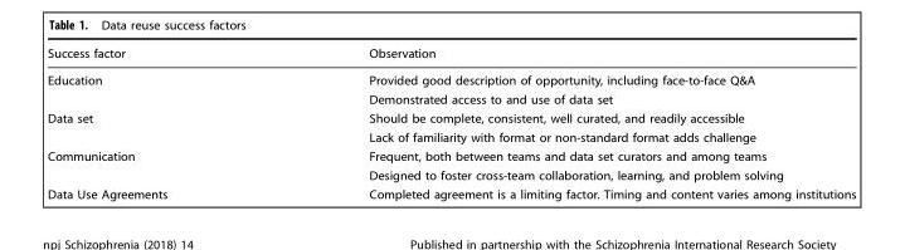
<table><thead><tr><td>Success factor</td><td>Observation</td></tr></thead><tbody><tr><td rowspan="2">Education</td><td>Provided good description of opportunity, including face-to-face Q&amp;A</td></tr><tr><td>Demonstrated access to and use of data set</td></tr><tr><td rowspan="2">Data set</td><td>Should be complete, consistent, well curated, and readily accessible</td></tr><tr><td>Lack of familiarity with format or non-standard format adds challenge</td></tr><tr><td rowspan="2">Communication</td><td>Frequent, both between teams and data set curators and among teams</td></tr><tr><td>Designed to foster cross-team collaboration, learning, and problem solving</td></tr><tr><td>Data Use Agreements</td><td>Completed agreement is a limiting factor. Timing and content varies among institutions</td></tr></tbody></table>